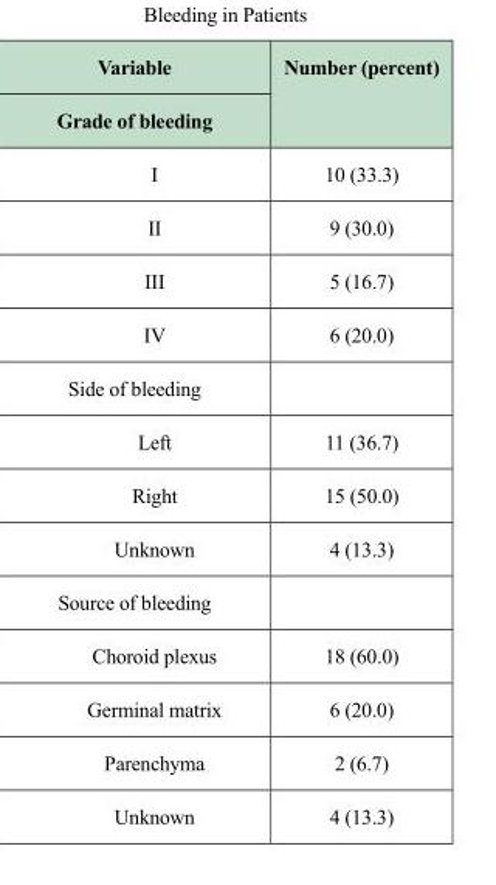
<table><thead><tr><td rowspan="2">Variable Grade of bleeding</td><td rowspan="2">Number (percent)</td></tr><tr></tr></thead><tbody><tr><td>I</td><td>10 (33.3)</td></tr><tr><td>II</td><td>9 (30.0)</td></tr><tr><td>III</td><td>5 (16.7)</td></tr><tr><td>IV</td><td>6 (20.0)</td></tr><tr><td colspan="2">Side of bleeding</td></tr><tr><td>Left</td><td>11 (36.7)</td></tr><tr><td>Right</td><td>15 (50.0)</td></tr><tr><td>Unknown</td><td>4 (13.3)</td></tr><tr><td colspan="2">Source of bleeding</td></tr><tr><td>Choroid plexus</td><td>18 (60.0)</td></tr><tr><td>Germinal matrix</td><td>6 (20.0)</td></tr><tr><td>Parenchyma</td><td>2 (6.7)</td></tr><tr><td>Unknown</td><td>4 (13.3)</td></tr></tbody></table>